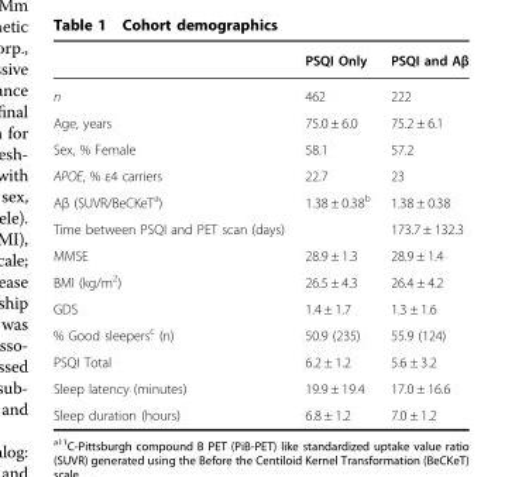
<table><thead><tr><td></td><td>PSQI Only</td><td>PSQI and Aβ</td></tr></thead><tbody><tr><td>n</td><td>462</td><td>222</td></tr><tr><td>Age, years</td><td>75.0 ± 6.0</td><td>75.2 ± 6.1</td></tr><tr><td>Sex, % Female</td><td>58.1</td><td>57.2</td></tr><tr><td>APOE, % ε4 carriers</td><td>22.7</td><td>23</td></tr><tr><td>Aβ (SUVR/BeCKeT<sup>a</sup>)</td><td>1.38 ± 0.38<sup>b</sup></td><td>1.38 ± 0.38</td></tr><tr><td>Time between PSQI and PET scan (days)</td><td></td><td>173.7 ± 132.3</td></tr><tr><td>MMSE</td><td>28.9 ± 1.3</td><td>28.9 ± 1.4</td></tr><tr><td>BMI (kg/m<sup>2</sup>)</td><td>26.5 ± 4.3</td><td>26.4 ± 4.2</td></tr><tr><td>GDS</td><td>1.4 ± 1.7</td><td>1.3 ± 1.6</td></tr><tr><td>% Good sleepers<sup>c</sup> (n)</td><td>50.9 (235)</td><td>55.9 (124)</td></tr><tr><td>PSQI Total</td><td>6.2 ± 1.2</td><td>5.6 ± 3.2</td></tr><tr><td>Sleep latency (minutes)</td><td>19.9 ± 19.4</td><td>17.0 ± 16.6</td></tr><tr><td>Sleep duration (hours)</td><td>6.8 ± 1.2</td><td>7.0 ± 1.2</td></tr></tbody></table>